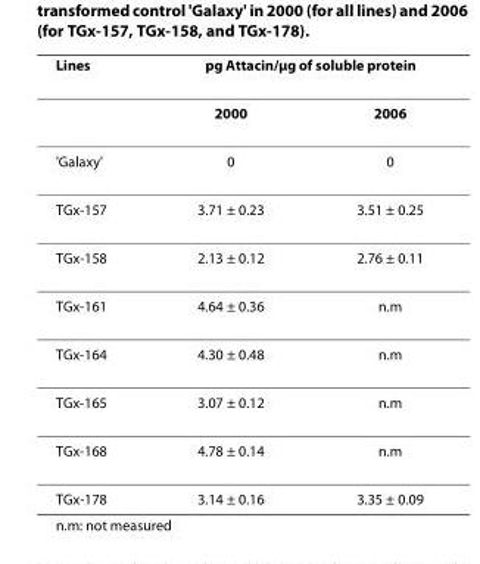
<table><thead><tr><td rowspan="2">Lines</td><td colspan="2">pg Attacin/μg of soluble protein</td></tr><tr><td>2000</td><td>2006</td></tr></thead><tbody><tr><td>&#x27;Galaxy&#x27;</td><td>0</td><td>0</td></tr><tr><td>TGx-157</td><td>3.71 ± 0.23</td><td>3.51 ± 0.25</td></tr><tr><td>TGx-158</td><td>2.13 ± 0.12</td><td>2.76 ± 0.11</td></tr><tr><td>TGx-161</td><td>4.64 ± 0.36</td><td>n.m</td></tr><tr><td>TGx-164</td><td>4.30 ± 0.48</td><td>n.m</td></tr><tr><td>TGx-165</td><td>3.07 ± 0.12</td><td>n.m</td></tr><tr><td>TGx-168</td><td>4.78 ± 0.14</td><td>n.m</td></tr><tr><td>TGx-178</td><td>3.14 ± 0.16</td><td>3.35 ± 0.09</td></tr></tbody></table>